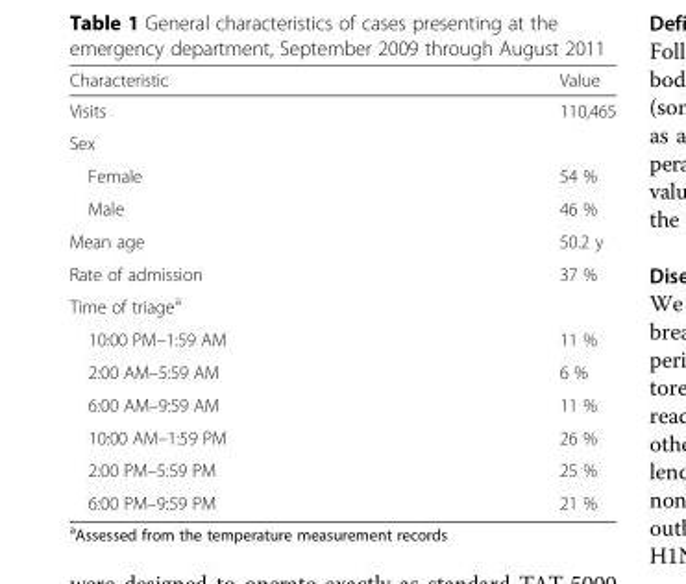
<table><thead><tr><td>Characteristic</td><td>Value</td></tr></thead><tbody><tr><td>Visits</td><td>110,465</td></tr><tr><td colspan="2">Sex</td></tr><tr><td>Female</td><td>54 %</td></tr><tr><td>Male</td><td>46 %</td></tr><tr><td>Mean age</td><td>50.2 y</td></tr><tr><td>Rate of admission</td><td>37 %</td></tr><tr><td colspan="2">Time of triage<sup>a</sup></td></tr><tr><td>10:00 PM–1:59 AM</td><td>11 %</td></tr><tr><td>2:00 AM–5:59 AM</td><td>6 %</td></tr><tr><td>6:00 AM–9:59 AM</td><td>11 %</td></tr><tr><td>10:00 AM–1:59 PM</td><td>26 %</td></tr><tr><td>2:00 PM–5:59 PM</td><td>25 %</td></tr><tr><td>6:00 PM–9:59 PM</td><td>21 %</td></tr></tbody></table>